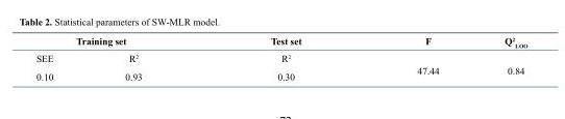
<table><thead><tr><td colspan="2">Training set</td><td rowspan="2">Test set R<sup>2</sup></td><td rowspan="2">F</td><td rowspan="2">Q<sup>2</sup> <sub>LOO</sub></td></tr><tr><td>SEE</td><td>R<sup>2</sup></td></tr></thead><tbody><tr><td>0.10</td><td>0.93</td><td>0.30</td><td>47.44</td><td>0.84</td></tr></tbody></table>